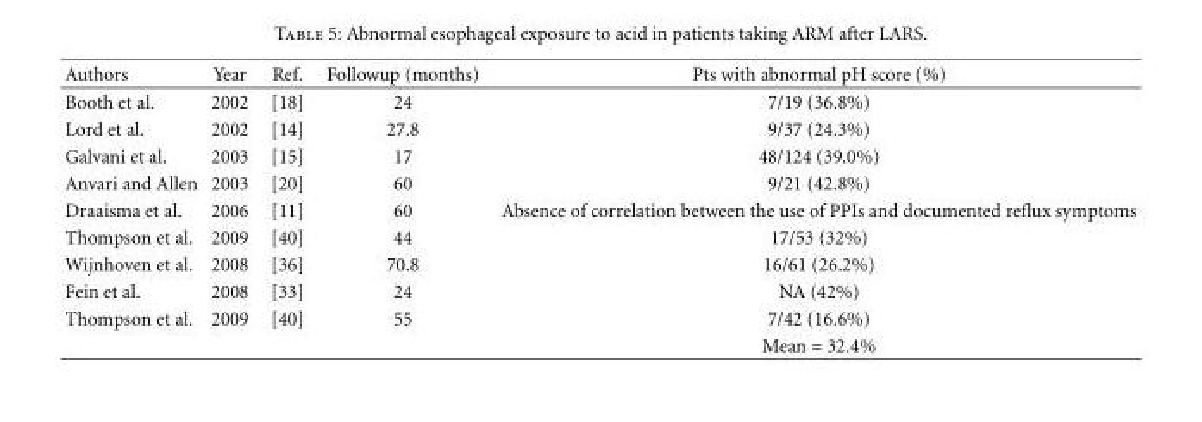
<table><thead><tr><td>Authors</td><td>Year</td><td>Ref.</td><td>Followup (months)</td><td>Pts with abnormal pH score (%)</td></tr></thead><tbody><tr><td>Booth et al.</td><td>2002</td><td>[18]</td><td>24</td><td>7/19 (36.8%)</td></tr><tr><td>Lord et al.</td><td>2002</td><td>[14]</td><td>27.8</td><td>9/37 (24.3%)</td></tr><tr><td>Galvani et al.</td><td>2003</td><td>[15]</td><td>17</td><td>48/124 (39.0%)</td></tr><tr><td>Anvari and Allen</td><td>2003</td><td>[20]</td><td>60</td><td>9/21 (42.8%)</td></tr><tr><td>Draaisma et al.</td><td>2006</td><td>[11]</td><td>60</td><td>Absence of correlation between the use of PPIs and documented reflux symptoms</td></tr><tr><td>Thompson et al.</td><td>2009</td><td>[40]</td><td>44</td><td>17/53 (32%)</td></tr><tr><td>Wijnhoven et al.</td><td>2008</td><td>[36]</td><td>70.8</td><td>16/61 (26.2%)</td></tr><tr><td>Fein et al.</td><td>2008</td><td>[33]</td><td>24</td><td>NA (42%)</td></tr><tr><td rowspan="2">Thompson et al.</td><td>2009</td><td>[40]</td><td>55</td><td>7/42 (16.6%)</td></tr><tr><td></td><td></td><td></td><td>Mean = 32.4%</td></tr></tbody></table>